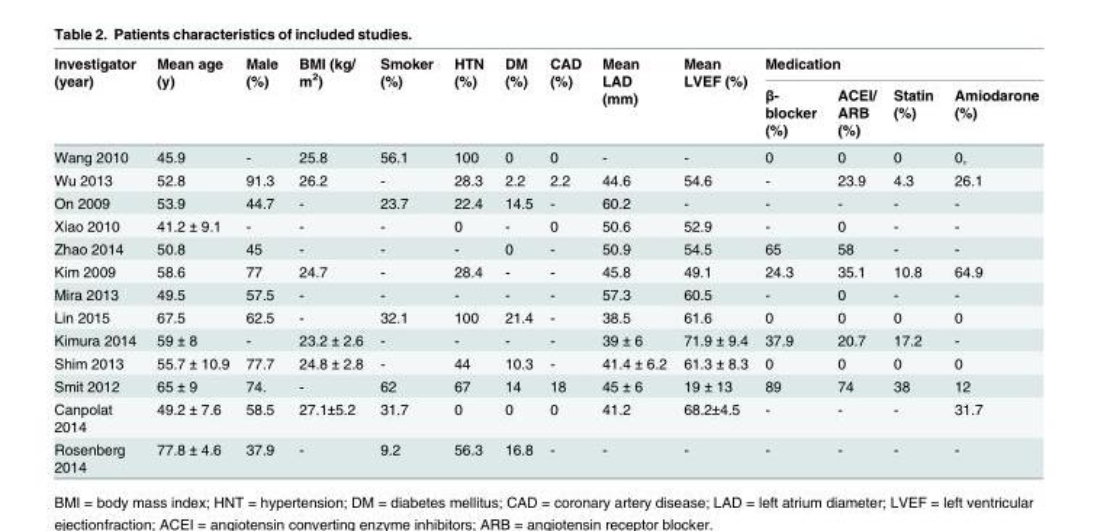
<table><thead><tr><td rowspan="2">Investigator (year)</td><td rowspan="2">Mean age (y)</td><td rowspan="2">Male (%)</td><td rowspan="2">BMI (kg/ m<sup>2</sup>)</td><td rowspan="2">Smoker (%)</td><td rowspan="2">HTN (%)</td><td rowspan="2">DM (%)</td><td rowspan="2">CAD (%)</td><td rowspan="2">Mean LAD (mm)</td><td rowspan="2">Mean LVEF (%)</td><td colspan="4">Medication</td></tr><tr><td>β- blocker (%)</td><td>ACEI/ ARB (%)</td><td>Statin (%)</td><td>Amiodarone (%)</td></tr></thead><tbody><tr><td>Wang 2010</td><td>45.9</td><td>-</td><td>25.8</td><td>56.1</td><td>100</td><td>0</td><td>0</td><td>-</td><td>-</td><td>0</td><td>0</td><td>0</td><td>0,</td></tr><tr><td>Wu 2013</td><td>52.8</td><td>91.3</td><td>26.2</td><td>-</td><td>28.3</td><td>2.2</td><td>2.2</td><td>44.6</td><td>54.6</td><td>-</td><td>23.9</td><td>4.3</td><td>26.1</td></tr><tr><td>On 2009</td><td>53.9</td><td>44.7</td><td>-</td><td>23.7</td><td>22.4</td><td>14.5</td><td>-</td><td>60.2</td><td>-</td><td>-</td><td>-</td><td>-</td><td>-</td></tr><tr><td>Xiao 2010</td><td>41.2 ± 9.1</td><td>-</td><td>-</td><td>-</td><td>0</td><td>-</td><td>0</td><td>50.6</td><td>52.9</td><td>-</td><td>0</td><td>-</td><td>-</td></tr><tr><td>Zhao 2014</td><td>50.8</td><td>45</td><td>-</td><td>-</td><td>-</td><td>0</td><td>-</td><td>50.9</td><td>54.5</td><td>65</td><td>58</td><td>-</td><td>-</td></tr><tr><td>Kim 2009</td><td>58.6</td><td>77</td><td>24.7</td><td>-</td><td>28.4</td><td>-</td><td>-</td><td>45.8</td><td>49.1</td><td>24.3</td><td>35.1</td><td>10.8</td><td>64.9</td></tr><tr><td>Mira 2013</td><td>49.5</td><td>57.5</td><td>-</td><td>-</td><td>-</td><td>-</td><td>-</td><td>57.3</td><td>60.5</td><td>-</td><td>0</td><td>-</td><td>-</td></tr><tr><td>Lin 2015</td><td>67.5</td><td>62.5</td><td>-</td><td>32.1</td><td>100</td><td>21.4</td><td>-</td><td>38.5</td><td>61.6</td><td>0</td><td>0</td><td>0</td><td>0</td></tr><tr><td>Kimura 2014</td><td>59 ± 8</td><td>-</td><td>23.2 ± 2.6</td><td>-</td><td>-</td><td>-</td><td>-</td><td>39 ± 6</td><td>71.9 ± 9.4</td><td>37.9</td><td>20.7</td><td>17.2</td><td>-</td></tr><tr><td>Shim 2013</td><td>55.7 ± 10.9</td><td>77.7</td><td>24.8 ± 2.8</td><td>-</td><td>44</td><td>10.3</td><td>-</td><td>41.4 ± 6.2</td><td>61.3 ± 8.3</td><td>0</td><td>0</td><td>0</td><td>0</td></tr><tr><td>Smit 2012</td><td>65 ± 9</td><td>74.</td><td>-</td><td>62</td><td>67</td><td>14</td><td>18</td><td>45 ± 6</td><td>19 ± 13</td><td>89</td><td>74</td><td>38</td><td>12</td></tr><tr><td>Canpolat 2014</td><td>49.2 ± 7.6</td><td>58.5</td><td>27.1±5.2</td><td>31.7</td><td>0</td><td>0</td><td>0</td><td>41.2</td><td>68.2±4.5</td><td>-</td><td>-</td><td>-</td><td>31.7</td></tr><tr><td>Rosenberg 2014</td><td>77.8 ± 4.6</td><td>37.9</td><td>-</td><td>9.2</td><td>56.3</td><td>16.8</td><td>-</td><td>-</td><td>-</td><td>-</td><td>-</td><td>-</td><td>-</td></tr></tbody></table>